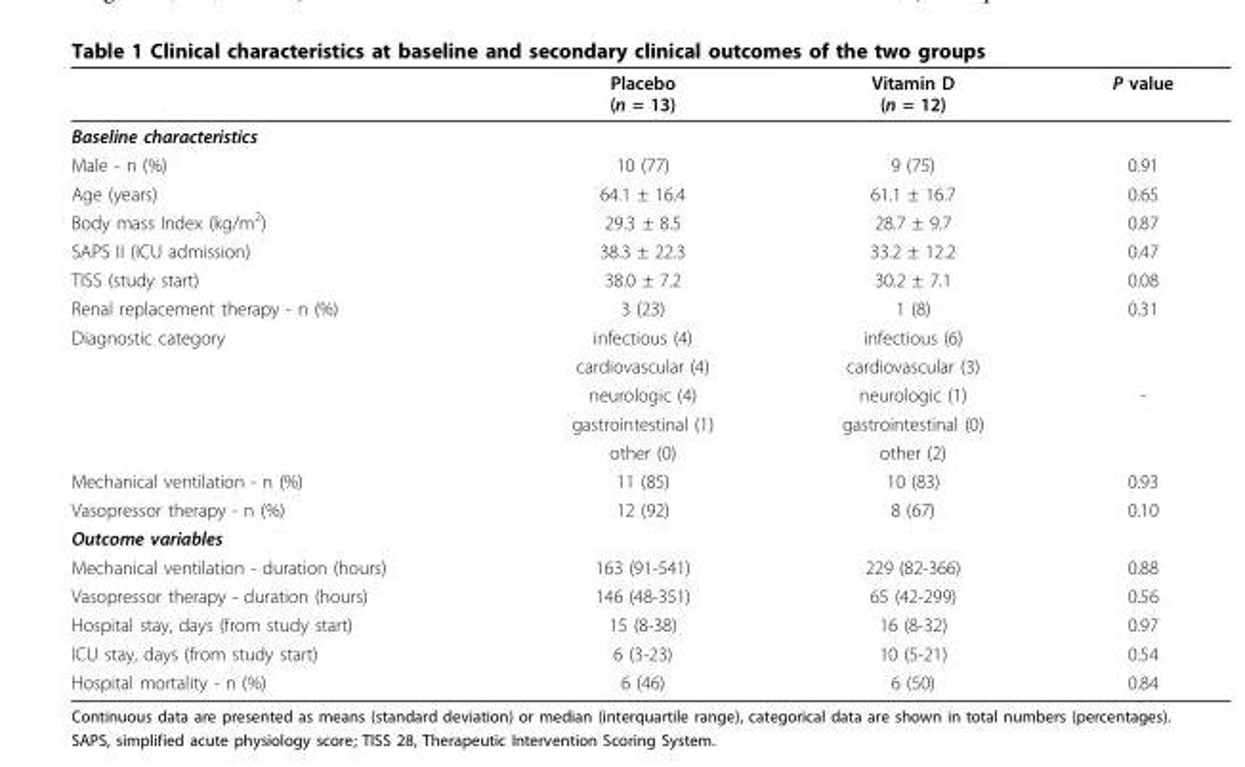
<table><thead><tr><td></td><td>Placebo (n = 13)</td><td>Vitamin D (n = 12)</td><td>P value</td></tr></thead><tbody><tr><td colspan="4">Baseline characteristics</td></tr><tr><td>Male - n (%)</td><td>10 (77)</td><td>9 (75)</td><td>0.91</td></tr><tr><td>Age (years)</td><td>64.1 ± 16.4</td><td>61.1 ± 16.7</td><td>0.65</td></tr><tr><td>Body mass Index (kg/m<sup>2</sup>)</td><td>29.3 ± 8.5</td><td>28.7 ± 9.7</td><td>0.87</td></tr><tr><td>SAPS II (ICU admission)</td><td>38.3 ± 22.3</td><td>33.2 ± 12.2</td><td>0.47</td></tr><tr><td>TISS (study start)</td><td>38.0 ± 7.2</td><td>30.2 ± 7.1</td><td>0.08</td></tr><tr><td>Renal replacement therapy - n (%)</td><td>3 (23)</td><td>1 (8)</td><td>0.31</td></tr><tr><td rowspan="5">Diagnostic category</td><td>infectious (4)</td><td>infectious (6)</td><td></td></tr><tr><td>cardiovascular (4)</td><td>cardiovascular (3)</td><td></td></tr><tr><td>neurologic (4)</td><td>neurologic (1)</td><td>-</td></tr><tr><td>gastrointestinal (1)</td><td>gastrointestinal (0)</td><td></td></tr><tr><td>other (0)</td><td>other (2)</td><td></td></tr><tr><td>Mechanical ventilation - n (%)</td><td>11 (85)</td><td>10 (83)</td><td>0.93</td></tr><tr><td>Vasopressor therapy - n (%)</td><td>12 (92)</td><td>8 (67)</td><td>0.10</td></tr><tr><td colspan="4">Outcome variables</td></tr><tr><td>Mechanical ventilation - duration (hours)</td><td>163 (91-541)</td><td>229 (82-366)</td><td>0.88</td></tr><tr><td>Vasopressor therapy - duration (hours)</td><td>146 (48-351)</td><td>65 (42-299)</td><td>0.56</td></tr><tr><td>Hospital stay, days (from study start)</td><td>15 (8-38)</td><td>16 (8-32)</td><td>0.97</td></tr><tr><td>ICU stay, days (from study start)</td><td>6 (3-23)</td><td>10 (5-21)</td><td>0.54</td></tr><tr><td>Hospital mortality - n (%)</td><td>6 (46)</td><td>6 (50)</td><td>0.84</td></tr></tbody></table>